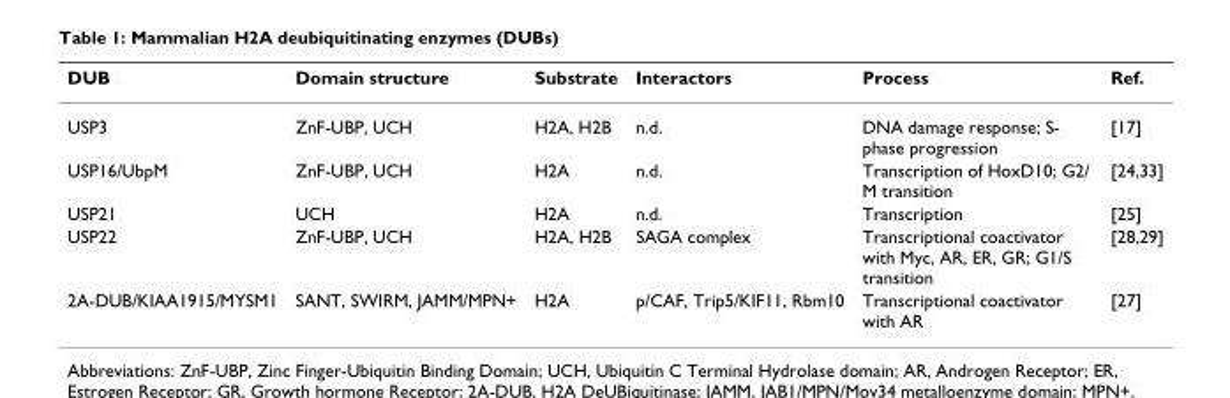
<table><thead><tr><td>DUB</td><td>Domain structure</td><td>Substrate</td><td>Interactors</td><td>Process</td><td>Ref.</td></tr></thead><tbody><tr><td>USP3</td><td>ZnF-UBP, UCH</td><td>H2A, H2B</td><td>n.d.</td><td>DNA damage response; S- phase progression</td><td>[17]</td></tr><tr><td>USP16/UbpM</td><td>ZnF-UBP, UCH</td><td>H2A</td><td>n.d.</td><td>Transcription of HoxD10; G2/ M transition</td><td>[24,33]</td></tr><tr><td>USP21</td><td>UCH</td><td>H2A</td><td>n.d.</td><td>Transcription</td><td>[25]</td></tr><tr><td>USP22</td><td>ZnF-UBP, UCH</td><td>H2A, H2B</td><td>SAGA complex</td><td>Transcriptional coactivator with Myc, AR, ER, GR; G1/S transition</td><td>[28,29]</td></tr><tr><td>2A-DUB/KIAA1915/MYSM1</td><td>SANT, SWIRM, JAMM/MPN+</td><td>H2A</td><td>p/CAF, Trip5/KIF11, Rbm10</td><td>Transcriptional coactivator with AR</td><td>[27]</td></tr></tbody></table>